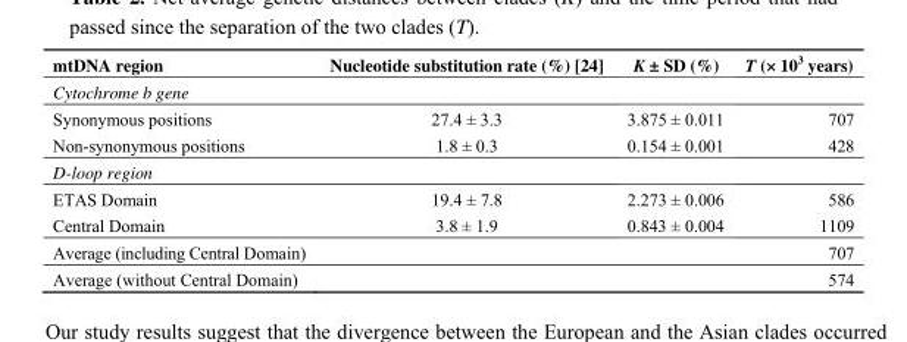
<table><thead><tr><td>mtDNA region</td><td>Nucleotide substitution rate (%) [24]</td><td>K ± SD (%)</td><td>T (× 10<sup>3</sup> years)</td></tr></thead><tbody><tr><td colspan="4">Cytochrome b gene</td></tr><tr><td>Synonymous positions</td><td>27.4 ± 3.3</td><td>3.875 ± 0.011</td><td>707</td></tr><tr><td>Non-synonymous positions</td><td>1.8 ± 0.3</td><td>0.154 ± 0.001</td><td>428</td></tr><tr><td colspan="4">D-loop region</td></tr><tr><td>ETAS Domain</td><td>19.4 ± 7.8</td><td>2.273 ± 0.006</td><td>586</td></tr><tr><td>Central Domain</td><td>3.8 ± 1.9</td><td>0.843 ± 0.004</td><td>1109</td></tr><tr><td>Average (including Central Domain)</td><td></td><td></td><td>707</td></tr><tr><td>Average (without Central Domain)</td><td></td><td></td><td>574</td></tr></tbody></table>